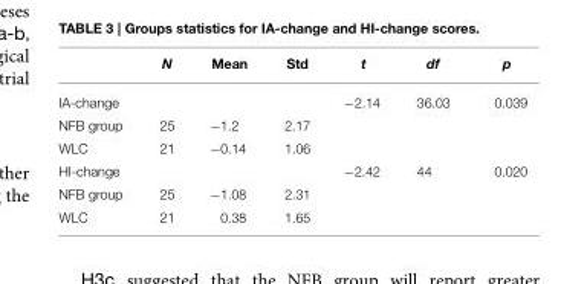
<table><thead><tr><td></td><td>N</td><td>Mean</td><td>Std</td><td>t</td><td>df</td><td>p</td></tr></thead><tbody><tr><td>IA-change</td><td></td><td></td><td></td><td>−2.14</td><td>36.03</td><td>0.039</td></tr><tr><td>NFB group</td><td>25</td><td>−1.2</td><td>2.17</td><td></td><td></td><td></td></tr><tr><td>WLC</td><td>21</td><td>−0.14</td><td>1.06</td><td></td><td></td><td></td></tr><tr><td>HI-change</td><td></td><td></td><td></td><td>−2.42</td><td>44</td><td>0.020</td></tr><tr><td>NFB group</td><td>25</td><td>−1.08</td><td>2.31</td><td></td><td></td><td></td></tr><tr><td>WLC</td><td>21</td><td>0.38</td><td>1.65</td><td></td><td></td><td></td></tr></tbody></table>